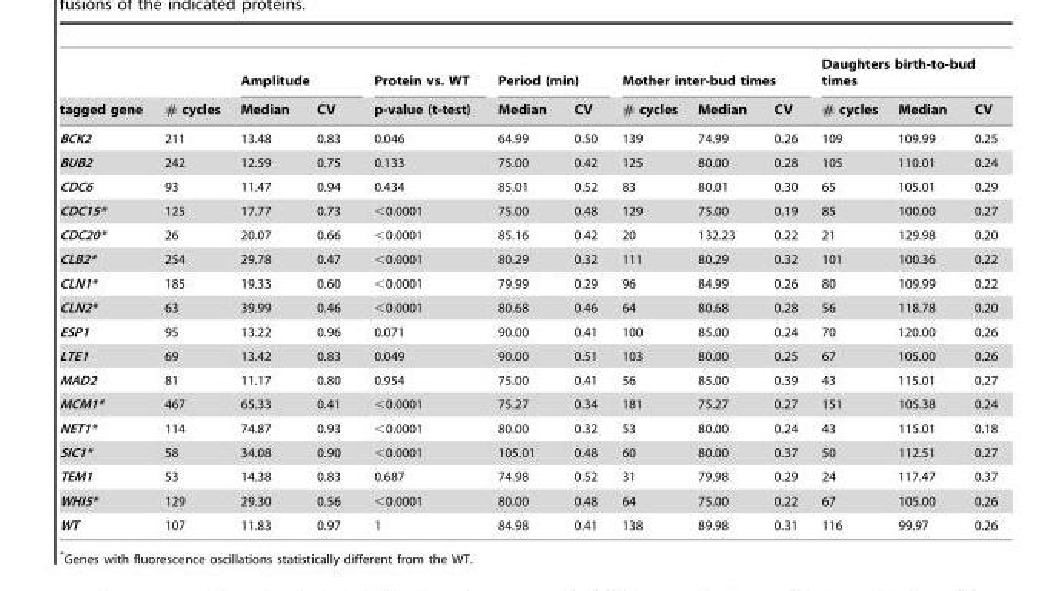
<table><thead><tr><td rowspan="2">tagged gene</td><td rowspan="2"># cycles</td><td colspan="2">Amplitude</td><td rowspan="2">Protein vs. WT p-value (t-test)</td><td colspan="2">Period (min)</td><td colspan="3">Mother inter-bud times</td><td colspan="3">Daughters birth-to-bud times</td></tr><tr><td>Median</td><td>CV</td><td>Median</td><td>CV</td><td># cycles</td><td>Median</td><td>CV</td><td># cycles</td><td>Median</td><td>CV</td></tr></thead><tbody><tr><td>BCK2</td><td>211</td><td>13.48</td><td>0.83</td><td>0.046</td><td>64.99</td><td>0.50</td><td>139</td><td>74.99</td><td>0.26</td><td>109</td><td>109.99</td><td>0.25</td></tr><tr><td>BUB2</td><td>242</td><td>12.59</td><td>0.75</td><td>0.133</td><td>75.00</td><td>0.42</td><td>125</td><td>80.00</td><td>0.28</td><td>105</td><td>110.01</td><td>0.24</td></tr><tr><td>CDC6</td><td>93</td><td>11.47</td><td>0.94</td><td>0.434</td><td>85.01</td><td>0.52</td><td>83</td><td>80.01</td><td>0.30</td><td>65</td><td>105.01</td><td>0.29</td></tr><tr><td>CDC15*</td><td>125</td><td>17.77</td><td>0.73</td><td>&lt;0.0001</td><td>75.00</td><td>0.48</td><td>129</td><td>75.00</td><td>0.19</td><td>85</td><td>100.00</td><td>0.27</td></tr><tr><td>CDC20*</td><td>26</td><td>20.07</td><td>0.66</td><td>&lt;0.0001</td><td>85.16</td><td>0.42</td><td>20</td><td>132.23</td><td>0.22</td><td>21</td><td>129.98</td><td>0.20</td></tr><tr><td>CLB2*</td><td>254</td><td>29.78</td><td>0.47</td><td>&lt;0.0001</td><td>80.29</td><td>0.32</td><td>111</td><td>80.29</td><td>0.32</td><td>101</td><td>100.36</td><td>0.22</td></tr><tr><td>CLN1*</td><td>185</td><td>19.33</td><td>0.60</td><td>&lt;0.0001</td><td>79.99</td><td>0.29</td><td>96</td><td>84.99</td><td>0.26</td><td>80</td><td>109.99</td><td>0.22</td></tr><tr><td>CLN2*</td><td>63</td><td>39.99</td><td>0.46</td><td>&lt;0.0001</td><td>80.68</td><td>0.46</td><td>64</td><td>80.68</td><td>0.28</td><td>56</td><td>118.78</td><td>0.20</td></tr><tr><td>ESP1</td><td>95</td><td>13.22</td><td>0.96</td><td>0.071</td><td>90.00</td><td>0.41</td><td>100</td><td>85.00</td><td>0.24</td><td>70</td><td>120.00</td><td>0.26</td></tr><tr><td>LTE1</td><td>69</td><td>13.42</td><td>0.83</td><td>0.049</td><td>90.00</td><td>0.51</td><td>103</td><td>80.00</td><td>0.25</td><td>67</td><td>105.00</td><td>0.26</td></tr><tr><td>MAD2</td><td>81</td><td>11.17</td><td>0.80</td><td>0.954</td><td>75.00</td><td>0.41</td><td>56</td><td>85.00</td><td>0.39</td><td>43</td><td>115.01</td><td>0.27</td></tr><tr><td>MCM1*</td><td>467</td><td>65.33</td><td>0.41</td><td>&lt;0.0001</td><td>75.27</td><td>0.34</td><td>181</td><td>75.27</td><td>0.27</td><td>151</td><td>105.38</td><td>0.24</td></tr><tr><td>NET1*</td><td>114</td><td>74.87</td><td>0.93</td><td>&lt;0.0001</td><td>80.00</td><td>0.32</td><td>53</td><td>80.00</td><td>0.24</td><td>43</td><td>115.01</td><td>0.18</td></tr><tr><td>SIC1*</td><td>58</td><td>34.08</td><td>0.90</td><td>&lt;0.0001</td><td>105.01</td><td>0.48</td><td>60</td><td>80.00</td><td>0.37</td><td>50</td><td>112.51</td><td>0.27</td></tr><tr><td>TEM1</td><td>53</td><td>14.38</td><td>0.83</td><td>0.687</td><td>74.98</td><td>0.52</td><td>31</td><td>79.98</td><td>0.29</td><td>24</td><td>117.47</td><td>0.37</td></tr><tr><td>WHI5*</td><td>129</td><td>29.30</td><td>0.56</td><td>&lt;0.0001</td><td>80.00</td><td>0.48</td><td>64</td><td>75.00</td><td>0.22</td><td>67</td><td>105.00</td><td>0.26</td></tr><tr><td>WT</td><td>107</td><td>11.83</td><td>0.97</td><td>1</td><td>84.98</td><td>0.41</td><td>138</td><td>89.98</td><td>0.31</td><td>116</td><td>99.97</td><td>0.26</td></tr></tbody></table>